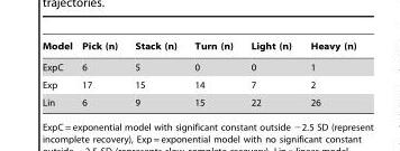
<table><thead><tr><td>Model</td><td>Pick (n)</td><td>Stack (n)</td><td>Turn (n)</td><td>Light (n)</td><td>Heavy (n)</td></tr></thead><tbody><tr><td>ExpC</td><td>6</td><td>5</td><td>0</td><td>0</td><td>1</td></tr><tr><td>Exp</td><td>17</td><td>15</td><td>14</td><td>7</td><td>2</td></tr><tr><td>Lin</td><td>6</td><td>9</td><td>15</td><td>22</td><td>26</td></tr></tbody></table>